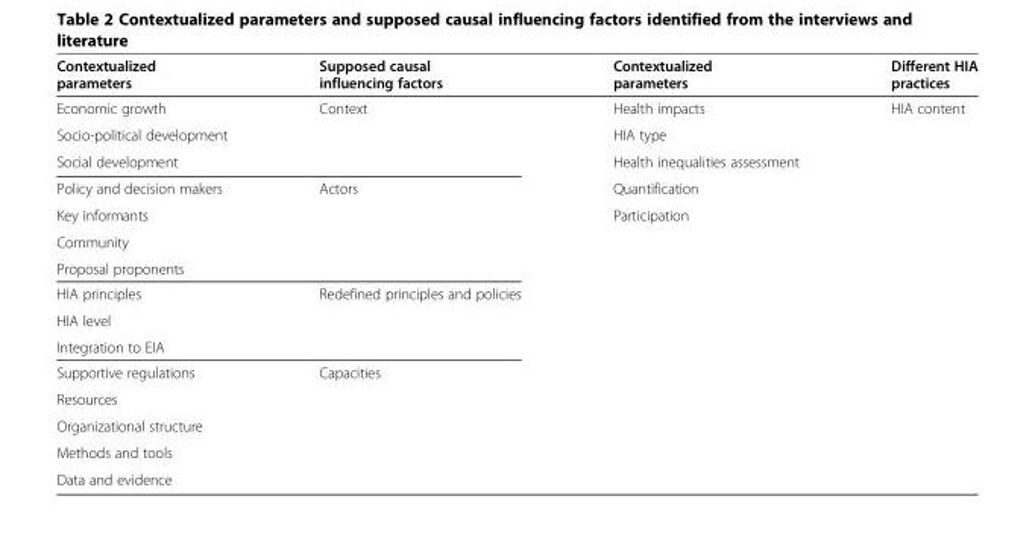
<table><thead><tr><td>Contextualized parameters</td><td>Supposed causal influencing factors</td><td>Contextualized parameters</td><td>Different HIA practices</td></tr></thead><tbody><tr><td>Economic growth</td><td rowspan="3">Context</td><td>Health impacts</td><td rowspan="5">HIA content</td></tr><tr><td>Socio-political development</td><td>HIA type</td></tr><tr><td>Social development</td><td>Health inequalities assessment</td></tr><tr><td>Policy and decision makers</td><td rowspan="4">Actors</td><td>Quantification</td></tr><tr><td>Key informants</td><td>Participation</td></tr><tr><td>Community</td><td rowspan="10"></td><td rowspan="10"></td></tr><tr><td>Proposal proponents</td></tr><tr><td>HIA principles</td><td rowspan="3">Redefined principles and policies</td></tr><tr><td>HIA level</td></tr><tr><td>Integration to EIA</td></tr><tr><td>Supportive regulations</td><td rowspan="5">Capacities</td></tr><tr><td>Resources</td></tr><tr><td>Organizational structure</td></tr><tr><td>Methods and tools</td></tr><tr><td>Data and evidence</td></tr></tbody></table>